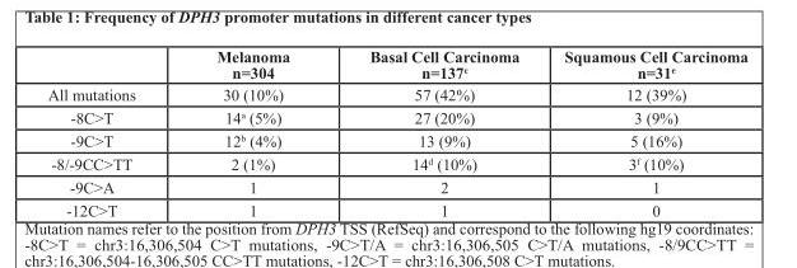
<table><thead><tr><td></td><td>Melanoma n=304</td><td>Basal Cell Carcinoma n=137<sup>c</sup></td><td>Squamous Cell Carcinoma n=31<sup>e</sup></td></tr></thead><tbody><tr><td>All mutations</td><td>30 (10%)</td><td>57 (42%)</td><td>12 (39%)</td></tr><tr><td>-8C&gt;T</td><td>14<sup>a</sup> (5%)</td><td>27 (20%)</td><td>3 (9%)</td></tr><tr><td>-9C&gt;T</td><td>12<sup>b</sup> (4%)</td><td>13 (9%)</td><td>5 (16%)</td></tr><tr><td>-8/-9CC&gt;TT</td><td>2 (1%)</td><td>14<sup>d</sup> (10%)</td><td>3<sup>f</sup> (10%)</td></tr><tr><td>-9C&gt;A</td><td>1</td><td>2</td><td>1</td></tr><tr><td>-12C&gt;T</td><td>1</td><td>1</td><td>0</td></tr></tbody></table>